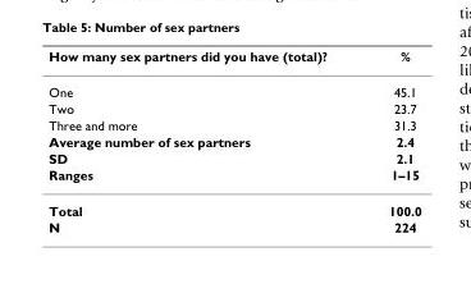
<table><thead><tr><td>How many sex partners did you have (total)?</td><td>%</td></tr></thead><tbody><tr><td>One</td><td>45.1</td></tr><tr><td>Two</td><td>23.7</td></tr><tr><td>Three and more</td><td>31.3</td></tr><tr><td>Average number of sex partners</td><td>2.4</td></tr><tr><td>SD</td><td>2.1</td></tr><tr><td>Ranges</td><td>1–15</td></tr><tr><td>Total</td><td>100.0</td></tr><tr><td>N</td><td>224</td></tr></tbody></table>